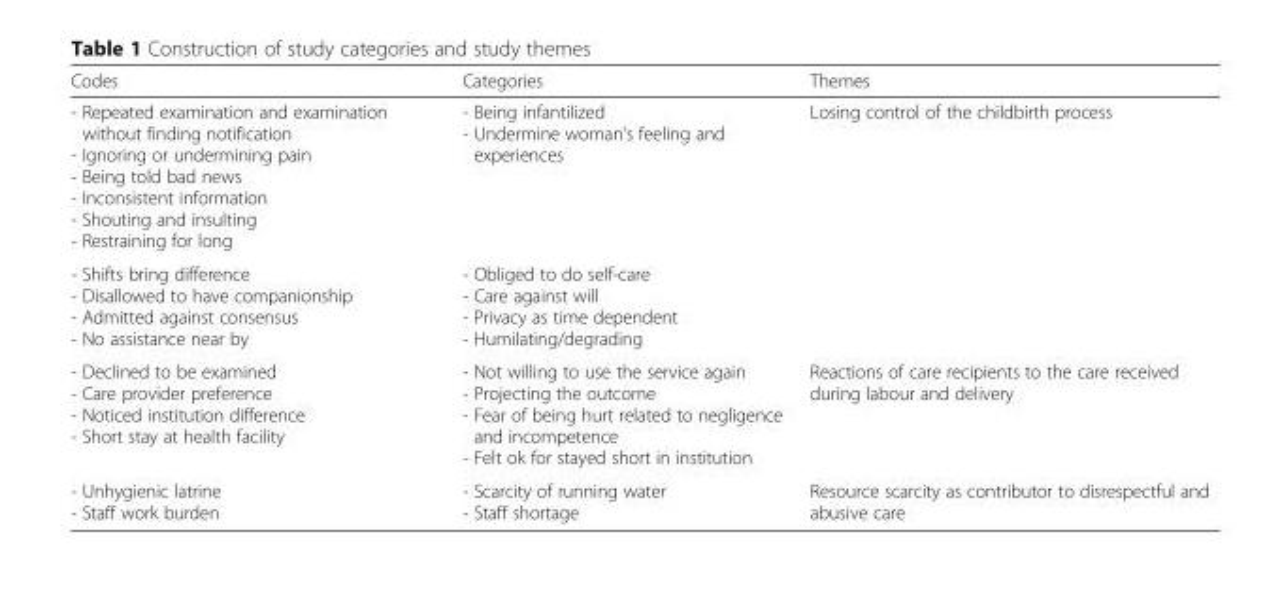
<table><thead><tr><td>Codes</td><td>Categories</td><td>Themes</td></tr></thead><tbody><tr><td>- Repeated examination and examination without finding notification - Ignoring or undermining pain - Being told bad news - Inconsistent information - Shouting and insulting - Restraining for long</td><td>- Being infantilized - Undermine woman’s feeling and experiences</td><td rowspan="2">Losing control of the childbirth process</td></tr><tr><td>- Shifts bring difference - Disallowed to have companionship - Admitted against consensus - No assistance near by</td><td>- Obliged to do self-care - Care against will - Privacy as time dependent - Humilating/degrading</td></tr><tr><td>- Declined to be examined - Care provider preference - Noticed institution difference - Short stay at health facility</td><td>- Not willing to use the service again - Projecting the outcome - Fear of being hurt related to negligence and incompetence - Felt ok for stayed short in institution</td><td>Reactions of care recipients to the care received during labour and delivery</td></tr><tr><td>- Unhygienic latrine - Staff work burden</td><td>- Scarcity of running water - Staff shortage</td><td>Resource scarcity as contributor to disrespectful and abusive care</td></tr></tbody></table>